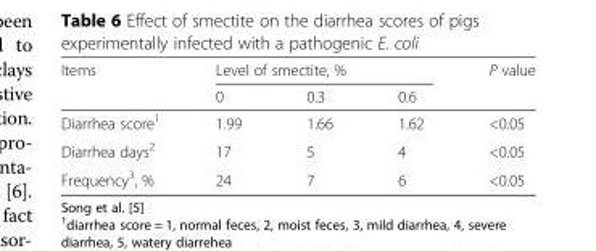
<table><thead><tr><td rowspan="2">Items</td><td colspan="3">Level of smectite, %</td><td rowspan="2">P value</td></tr><tr><td>0</td><td>0.3</td><td>0.6</td></tr></thead><tbody><tr><td>Diarrhea score<sup>1</sup></td><td>1.99</td><td>1.66</td><td>1.62</td><td>&lt;0.05</td></tr><tr><td>Diarrhea days<sup>2</sup></td><td>17</td><td>5</td><td>4</td><td>&lt;0.05</td></tr><tr><td>Frequency<sup>3</sup>, %</td><td>24</td><td>7</td><td>6</td><td>&lt;0.05</td></tr></tbody></table>